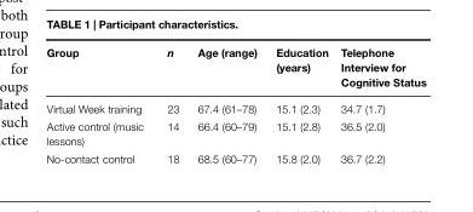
<table><thead><tr><td>Group</td><td>n</td><td>Age (range)</td><td>Education (years)</td><td>Telephone Interview for Cognitive Status</td></tr></thead><tbody><tr><td>Virtual Week training</td><td>23</td><td>67.4 (61–78)</td><td>15.1 (2.3)</td><td>34.7 (1.7)</td></tr><tr><td>Active control (music lessons)</td><td>14</td><td>66.4 (60–79)</td><td>15.1 (2.8)</td><td>36.5 (2.0)</td></tr><tr><td>No-contact control</td><td>18</td><td>68.5 (60–77)</td><td>15.8 (2.0)</td><td>36.7 (2.2)</td></tr></tbody></table>